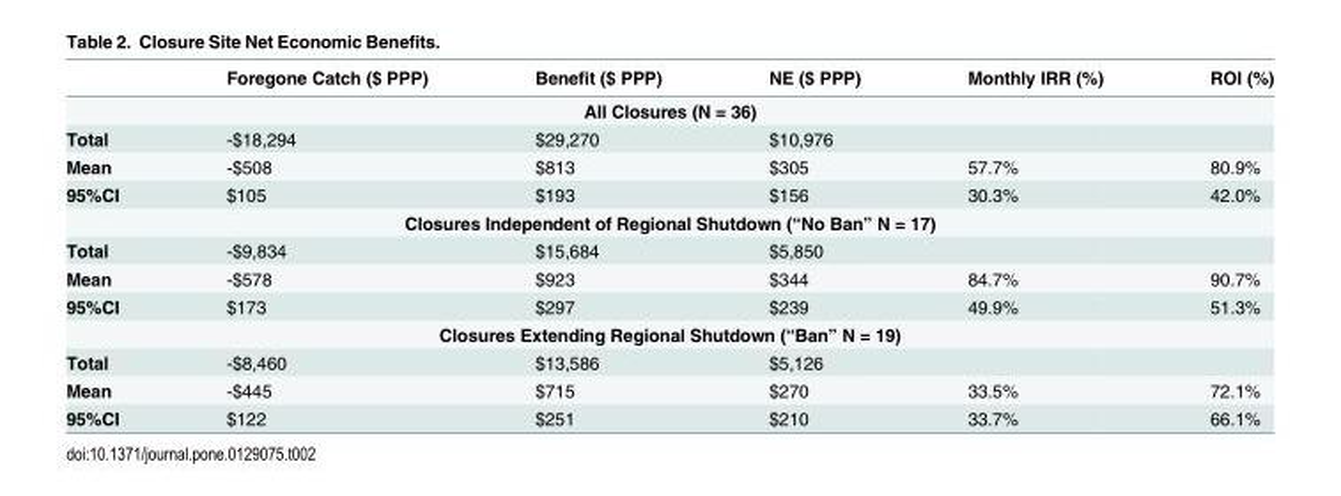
<table><thead><tr><td></td><td>Foregone Catch ($ PPP)</td><td>Benefit ($ PPP)</td><td>NE ($ PPP)</td><td>Monthly IRR (%)</td><td>ROI (%)</td></tr></thead><tbody><tr><td colspan="6">All Closures (N = 36)</td></tr><tr><td>Total</td><td>-$18,294</td><td>$29,270</td><td>$10,976</td><td></td><td></td></tr><tr><td>Mean</td><td>-$508</td><td>$813</td><td>$305</td><td>57.7%</td><td>80.9%</td></tr><tr><td>95%CI</td><td>$105</td><td>$193</td><td>$156</td><td>30.3%</td><td>42.0%</td></tr><tr><td colspan="6">Closures Independent of Regional Shutdown (“No Ban” N = 17)</td></tr><tr><td>Total</td><td>-$9,834</td><td>$15,684</td><td>$5,850</td><td></td><td></td></tr><tr><td>Mean</td><td>-$578</td><td>$923</td><td>$344</td><td>84.7%</td><td>90.7%</td></tr><tr><td>95%CI</td><td>$173</td><td>$297</td><td>$239</td><td>49.9%</td><td>51.3%</td></tr><tr><td colspan="6">Closures Extending Regional Shutdown (“Ban” N = 19)</td></tr><tr><td>Total</td><td>-$8,460</td><td>$13,586</td><td>$5,126</td><td></td><td></td></tr><tr><td>Mean</td><td>-$445</td><td>$715</td><td>$270</td><td>33.5%</td><td>72.1%</td></tr><tr><td>95%CI</td><td>$122</td><td>$251</td><td>$210</td><td>33.7%</td><td>66.1%</td></tr></tbody></table>